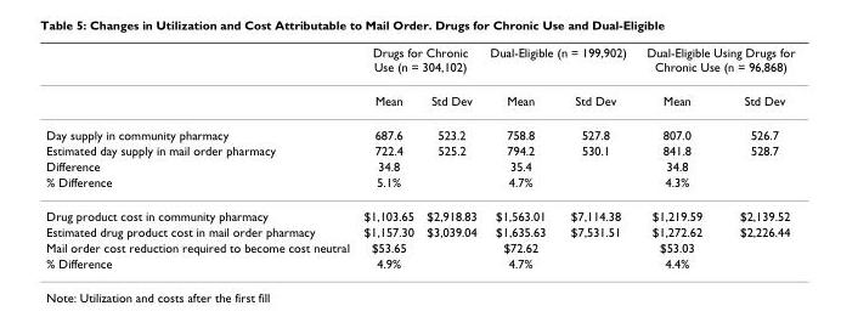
<table><thead><tr><td rowspan="2"></td><td colspan="2">Drugs for Chronic Use (n = 304,102)</td><td colspan="2">Dual-Eligible (n = 199,902)</td><td colspan="2">Dual-Eligible Using Drugs for Chronic Use (n = 96,868)</td></tr><tr><td>Mean</td><td>Std Dev</td><td>Mean</td><td>Std Dev</td><td>Mean</td><td>Std Dev</td></tr></thead><tbody><tr><td>Day supply in community pharmacy</td><td>687.6</td><td>523.2</td><td>758.8</td><td>527.8</td><td>807.0</td><td>526.7</td></tr><tr><td>Estimated day supply in mail order pharmacy</td><td>722.4</td><td>525.2</td><td>794.2</td><td>530.1</td><td>841.8</td><td>528.7</td></tr><tr><td>Difference</td><td>34.8</td><td></td><td>35.4</td><td></td><td>34.8</td><td></td></tr><tr><td>% Difference</td><td>5.1%</td><td></td><td>4.7%</td><td></td><td>4.3%</td><td></td></tr><tr><td>Drug product cost in community pharmacy</td><td>$1,103.65</td><td>$2,918.83</td><td>$1,563.01</td><td>$7,114.38</td><td>$1,219.59</td><td>$2,139.52</td></tr><tr><td>Estimated drug product cost in mail order pharmacy</td><td>$1,157.30</td><td>$3,039.04</td><td>$1,635.63</td><td>$7,531.51</td><td>$1,272.62</td><td>$2,226.44</td></tr><tr><td>Mail order cost reduction required to become cost neutral</td><td>$53.65</td><td></td><td>$72.62</td><td></td><td>$53.03</td><td></td></tr><tr><td>% Difference</td><td>4.9%</td><td></td><td>4.7%</td><td></td><td>4.4%</td><td></td></tr></tbody></table>